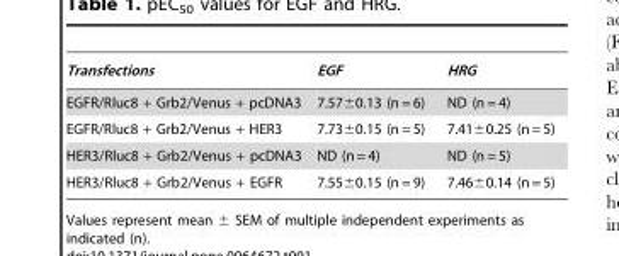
<table><thead><tr><td>Transfections</td><td>EGF</td><td>HRG</td></tr></thead><tbody><tr><td>EGFR/Rluc8 + Grb2/Venus + pcDNA3</td><td>7.57±0.13 (n = 6)</td><td>ND (n = 4)</td></tr><tr><td>EGFR/Rluc8 + Grb2/Venus + HER3</td><td>7.73±0.15 (n = 5)</td><td>7.41±0.25 (n = 5)</td></tr><tr><td>HER3/Rluc8 + Grb2/Venus + pcDNA3</td><td>ND (n = 4)</td><td>ND (n = 5)</td></tr><tr><td>HER3/Rluc8 + Grb2/Venus + EGFR</td><td>7.55±0.15 (n = 9)</td><td>7.46±0.14 (n = 5)</td></tr></tbody></table>